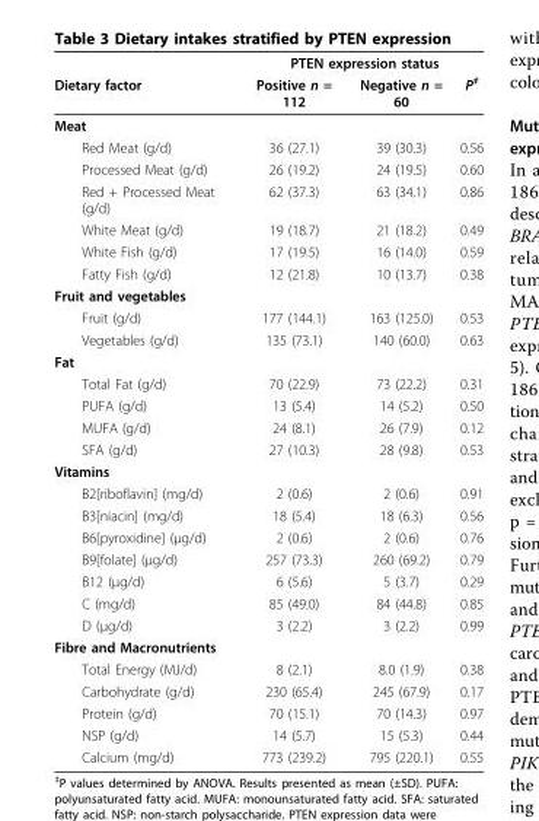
<table><thead><tr><td rowspan="2">Dietary factor</td><td colspan="3">PTEN expression status</td></tr><tr><td>Positive n = 112</td><td>Negative n = 60</td><td>P<sup>‡</sup></td></tr></thead><tbody><tr><td colspan="4">Meat</td></tr><tr><td>Red Meat (g/d)</td><td>36 (27.1)</td><td>39 (30.3)</td><td>0.56</td></tr><tr><td>Processed Meat (g/d)</td><td>26 (19.2)</td><td>24 (19.5)</td><td>0.60</td></tr><tr><td>Red + Processed Meat (g/d)</td><td>62 (37.3)</td><td>63 (34.1)</td><td>0.86</td></tr><tr><td>White Meat (g/d)</td><td>19 (18.7)</td><td>21 (18.2)</td><td>0.49</td></tr><tr><td>White Fish (g/d)</td><td>17 (19.5)</td><td>16 (14.0)</td><td>0.59</td></tr><tr><td>Fatty Fish (g/d)</td><td>12 (21.8)</td><td>10 (13.7)</td><td>0.38</td></tr><tr><td colspan="4">Fruit and vegetables</td></tr><tr><td>Fruit (g/d)</td><td>177 (144.1)</td><td>163 (125.0)</td><td>0.53</td></tr><tr><td>Vegetables (g/d)</td><td>135 (73.1)</td><td>140 (60.0)</td><td>0.63</td></tr><tr><td colspan="4">Fat</td></tr><tr><td>Total Fat (g/d)</td><td>70 (22.9)</td><td>73 (22.2)</td><td>0.31</td></tr><tr><td>PUFA (g/d)</td><td>13 (5.4)</td><td>14 (5.2)</td><td>0.50</td></tr><tr><td>MUFA (g/d)</td><td>24 (8.1)</td><td>26 (7.9)</td><td>0.12</td></tr><tr><td>SFA (g/d)</td><td>27 (10.3)</td><td>28 (9.8)</td><td>0.53</td></tr><tr><td colspan="4">Vitamins</td></tr><tr><td>B2[riboflavin] (mg/d)</td><td>2 (0.6)</td><td>2 (0.6)</td><td>0.91</td></tr><tr><td>B3[niacin] (mg/d)</td><td>18 (5.4)</td><td>18 (6.3)</td><td>0.56</td></tr><tr><td>B6[pyroxidine] (μg/d)</td><td>2 (0.6)</td><td>2 (0.6)</td><td>0.76</td></tr><tr><td>B9[folate] (μg/d)</td><td>257 (73.3)</td><td>260 (69.2)</td><td>0.79</td></tr><tr><td>B12 (μg/d)</td><td>6 (5.6)</td><td>5 (3.7)</td><td>0.29</td></tr><tr><td>C (mg/d)</td><td>85 (49.0)</td><td>84 (44.8)</td><td>0.85</td></tr><tr><td>D (μg/d)</td><td>3 (2.2)</td><td>3 (2.2)</td><td>0.99</td></tr><tr><td colspan="4">Fibre and Macronutrients</td></tr><tr><td>Total Energy (MJ/d)</td><td>8 (2.1)</td><td>8.0 (1.9)</td><td>0.38</td></tr><tr><td>Carbohydrate (g/d)</td><td>230 (65.4)</td><td>245 (67.9)</td><td>0.17</td></tr><tr><td>Protein (g/d)</td><td>70 (15.1)</td><td>70 (14.3)</td><td>0.97</td></tr><tr><td>NSP (g/d)</td><td>14 (5.7)</td><td>15 (5.3)</td><td>0.44</td></tr><tr><td>Calcium (mg/d)</td><td>773 (239.2)</td><td>795 (220.1)</td><td>0.55</td></tr></tbody></table>